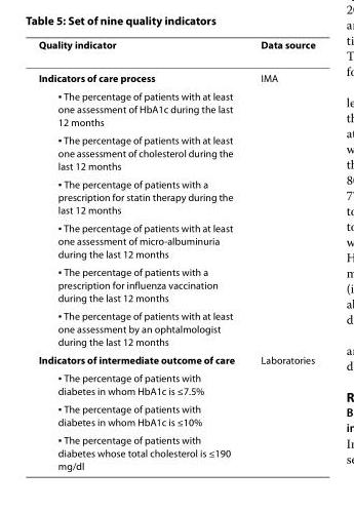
<table><thead><tr><td>Quality indicator</td><td>Data source</td></tr></thead><tbody><tr><td>Indicators of care process</td><td>IMA</td></tr><tr><td colspan="2">▪ The percentage of patients with at least one assessment of HbA1c during the last 12 months</td></tr><tr><td colspan="2">▪ The percentage of patients with at least one assessment of cholesterol during the last 12 months</td></tr><tr><td colspan="2">▪ The percentage of patients with a prescription for statin therapy during the last 12 months</td></tr><tr><td colspan="2">▪ The percentage of patients with at least one assessment of micro-albuminuria during the last 12 months</td></tr><tr><td colspan="2">▪ The percentage of patients with a prescription for influenza vaccination during the last 12 months</td></tr><tr><td colspan="2">▪ The percentage of patients with at least one assessment by an ophtalmologist during the last 12 months</td></tr><tr><td>Indicators of intermediate outcome of care</td><td>Laboratories</td></tr><tr><td colspan="2">▪ The percentage of patients with diabetes in whom HbA1c is ≤7.5%</td></tr><tr><td colspan="2">▪ The percentage of patients with diabetes in whom HbA1c is ≤10%</td></tr><tr><td>▪ The percentage of patients with diabetes whose total cholesterol is ≤190 mg/dl</td><td></td></tr></tbody></table>